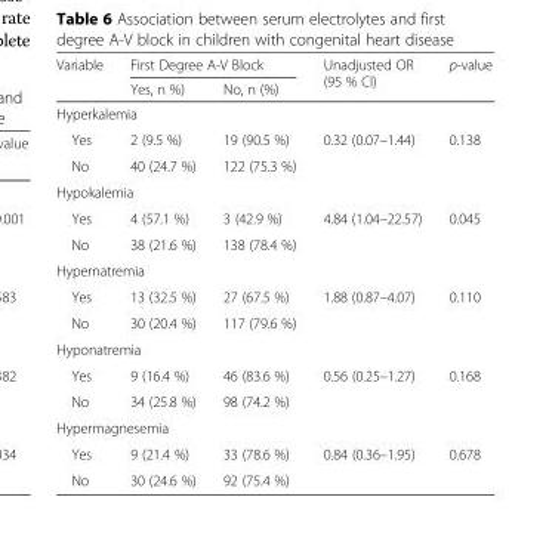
<table><thead><tr><td rowspan="2">Variable</td><td colspan="2">First Degree A-V Block</td><td rowspan="2">Unadjusted OR (95 % CI)</td><td rowspan="2">p-value</td></tr><tr><td>Yes, n %)</td><td>No, n (%)</td></tr></thead><tbody><tr><td colspan="5">Hyperkalemia</td></tr><tr><td>Yes</td><td>2 (9.5 %)</td><td>19 (90.5 %)</td><td rowspan="2">0.32 (0.07–1.44)</td><td rowspan="2">0.138</td></tr><tr><td>No</td><td>40 (24.7 %)</td><td>122 (75.3 %)</td></tr><tr><td colspan="5">Hypokalemia</td></tr><tr><td>Yes</td><td>4 (57.1 %)</td><td>3 (42.9 %)</td><td rowspan="2">4.84 (1.04–22.57)</td><td rowspan="2">0.045</td></tr><tr><td>No</td><td>38 (21.6 %)</td><td>138 (78.4 %)</td></tr><tr><td colspan="5">Hypernatremia</td></tr><tr><td>Yes</td><td>13 (32.5 %)</td><td>27 (67.5 %)</td><td rowspan="2">1.88 (0.87–4.07)</td><td rowspan="2">0.110</td></tr><tr><td>No</td><td>30 (20.4 %)</td><td>117 (79.6 %)</td></tr><tr><td colspan="5">Hyponatremia</td></tr><tr><td>Yes</td><td>9 (16.4 %)</td><td>46 (83.6 %)</td><td rowspan="2">0.56 (0.25–1.27)</td><td rowspan="2">0.168</td></tr><tr><td>No</td><td>34 (25.8 %)</td><td>98 (74.2 %)</td></tr><tr><td colspan="5">Hypermagnesemia</td></tr><tr><td>Yes</td><td>9 (21.4 %)</td><td>33 (78.6 %)</td><td rowspan="2">0.84 (0.36–1.95)</td><td rowspan="2">0.678</td></tr><tr><td>No</td><td>30 (24.6 %)</td><td>92 (75.4 %)</td></tr></tbody></table>